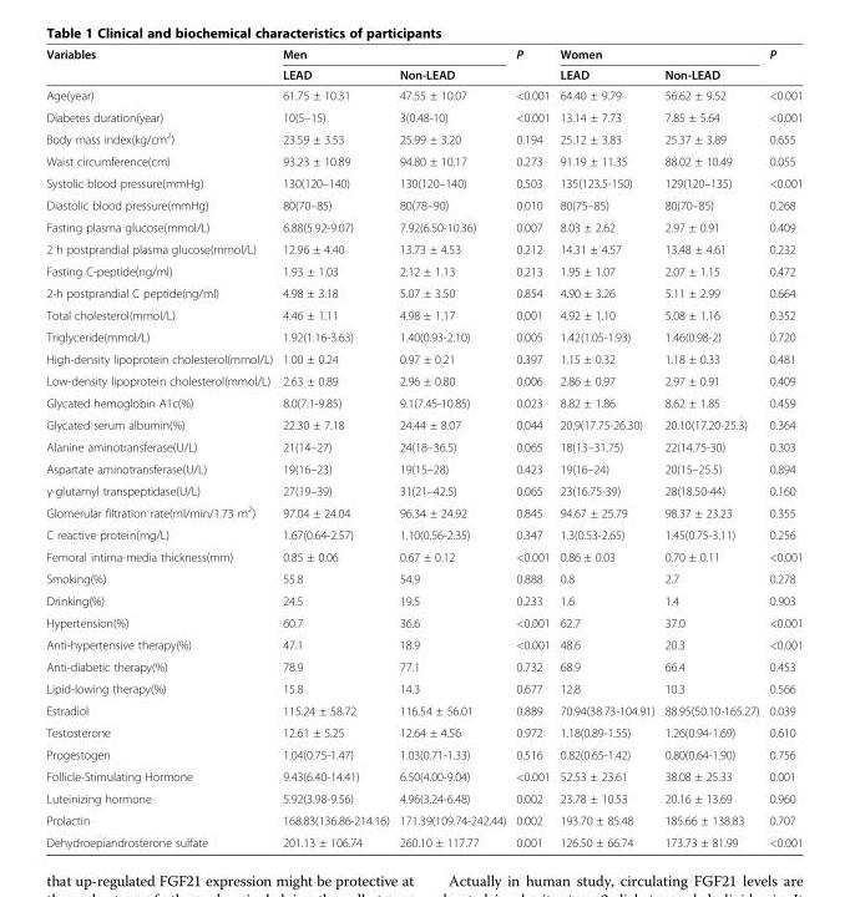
<table><thead><tr><td rowspan="2">Variables</td><td colspan="2">Men</td><td rowspan="2">P</td><td colspan="2">Women</td><td rowspan="2">P</td></tr><tr><td>LEAD</td><td>Non-LEAD</td><td>LEAD</td><td>Non-LEAD</td></tr></thead><tbody><tr><td>Age(year)</td><td>61.75 ± 10.31</td><td>47.55 ± 10.07</td><td>&lt;0.001</td><td>64.40 ± 9.79</td><td>56.62 ± 9.52</td><td>&lt;0.001</td></tr><tr><td>Diabetes duration(year)</td><td>10(5–15)</td><td>3(0.48-10)</td><td>&lt;0.001</td><td>13.14 ± 7.73</td><td>7.85 ± 5.64</td><td>&lt;0.001</td></tr><tr><td>Body mass index(kg/cm<sup>2</sup>)</td><td>23.59 ± 3.53</td><td>25.99 ± 3.20</td><td>0.194</td><td>25.12 ± 3.83</td><td>25.37 ± 3.89</td><td>0.655</td></tr><tr><td>Waist circumference(cm)</td><td>93.23 ± 10.89</td><td>94.80 ± 10.17</td><td>0.273</td><td>91.19 ± 11.35</td><td>88.02 ± 10.49</td><td>0.055</td></tr><tr><td>Systolic blood pressure(mmHg)</td><td>130(120–140)</td><td>130(120–140)</td><td>0.503</td><td>135(123.5-150)</td><td>129(120–135)</td><td>&lt;0.001</td></tr><tr><td>Diastolic blood pressure(mmHg)</td><td>80(70–85)</td><td>80(78–90)</td><td>0.010</td><td>80(75–85)</td><td>80(70–85)</td><td>0.268</td></tr><tr><td>Fasting plasma glucose(mmol/L)</td><td>6.88(5.92-9.07)</td><td>7.92(6.50-10.36)</td><td>0.007</td><td>8.03 ± 2.62</td><td>2.97 ± 0.91</td><td>0.409</td></tr><tr><td>2 h postprandial plasma glucose(mmol/L)</td><td>12.96 ± 4.40</td><td>13.73 ± 4.53</td><td>0.212</td><td>14.31 ± 4.57</td><td>13.48 ± 4.61</td><td>0.232</td></tr><tr><td>Fasting C-peptide(ng/ml)</td><td>1.93 ± 1.03</td><td>2.12 ± 1.13</td><td>0.213</td><td>1.95 ± 1.07</td><td>2.07 ± 1.15</td><td>0.472</td></tr><tr><td>2-h postprandial C peptide(ng/ml)</td><td>4.98 ± 3.18</td><td>5.07 ± 3.50</td><td>0.854</td><td>4.90 ± 3.26</td><td>5.11 ± 2.99</td><td>0.664</td></tr><tr><td>Total cholesterol(mmol/L)</td><td>4.46 ± 1.11</td><td>4.98 ± 1.17</td><td>0.001</td><td>4.92 ± 1.10</td><td>5.08 ± 1.16</td><td>0.352</td></tr><tr><td>Triglyceride(mmol/L)</td><td>1.92(1.16-3.63)</td><td>1.40(0.93-2.10)</td><td>0.005</td><td>1.42(1.05-1.93)</td><td>1.46(0.98-2)</td><td>0.720</td></tr><tr><td>High-density lipoprotein cholesterol(mmol/L)</td><td>1.00 ± 0.24</td><td>0.97 ± 0.21</td><td>0.397</td><td>1.15 ± 0.32</td><td>1.18 ± 0.33</td><td>0.481</td></tr><tr><td>Low-density lipoprotein cholesterol(mmol/L)</td><td>2.63 ± 0.89</td><td>2.96 ± 0.80</td><td>0.006</td><td>2.86 ± 0.97</td><td>2.97 ± 0.91</td><td>0.409</td></tr><tr><td>Glycated hemoglobin A1c(%)</td><td>8.0(7.1-9.85)</td><td>9.1(7.45-10.85)</td><td>0.023</td><td>8.82 ± 1.86</td><td>8.62 ± 1.85</td><td>0.459</td></tr><tr><td>Glycated serum albumin(%)</td><td>22.30 ± 7.18</td><td>24.44 ± 8.07</td><td>0.044</td><td>20.9(17.75-26.30)</td><td>20.10(17.20-25.3)</td><td>0.364</td></tr><tr><td>Alanine aminotransferase(U/L)</td><td>21(14–27)</td><td>24(18–36.5)</td><td>0.065</td><td>18(13–31.75)</td><td>22(14.75-30)</td><td>0.303</td></tr><tr><td>Aspartate aminotransferase(U/L)</td><td>19(16–23)</td><td>19(15–28)</td><td>0.423</td><td>19(16–24)</td><td>20(15–25.5)</td><td>0.894</td></tr><tr><td>γ-glutamyl transpeptidase(U/L)</td><td>27(19–39)</td><td>31(21–42.5)</td><td>0.065</td><td>23(16.75-39)</td><td>28(18.50-44)</td><td>0.160</td></tr><tr><td>Glomerular filtration rate(ml/min/1.73 m<sup>2</sup>)</td><td>97.04 ± 24.04</td><td>96.34 ± 24.92</td><td>0.845</td><td>94.67 ± 25.79</td><td>98.37 ± 23.23</td><td>0.355</td></tr><tr><td>C reactive protein(mg/L)</td><td>1.67(0.64-2.57)</td><td>1.10(0.56-2.35)</td><td>0.347</td><td>1.3(0.53-2.65)</td><td>1.45(0.75-3.11)</td><td>0.256</td></tr><tr><td>Femoral intima-media thickness(mm)</td><td>0.85 ± 0.06</td><td>0.67 ± 0.12</td><td>&lt;0.001</td><td>0.86 ± 0.03</td><td>0.70 ± 0.11</td><td>&lt;0.001</td></tr><tr><td>Smoking(%)</td><td>55.8</td><td>54.9</td><td>0.888</td><td>0.8</td><td>2.7</td><td>0.278</td></tr><tr><td>Drinking(%)</td><td>24.5</td><td>19.5</td><td>0.233</td><td>1.6</td><td>1.4</td><td>0.903</td></tr><tr><td>Hypertension(%)</td><td>60.7</td><td>36.6</td><td>&lt;0.001</td><td>62.7</td><td>37.0</td><td>&lt;0.001</td></tr><tr><td>Anti-hypertensive therapy(%)</td><td>47.1</td><td>18.9</td><td>&lt;0.001</td><td>48.6</td><td>20.3</td><td>&lt;0.001</td></tr><tr><td>Anti-diabetic therapy(%)</td><td>78.9</td><td>77.1</td><td>0.732</td><td>68.9</td><td>66.4</td><td>0.453</td></tr><tr><td>Lipid-lowing therapy(%)</td><td>15.8</td><td>14.3</td><td>0.677</td><td>12.8</td><td>10.3</td><td>0.566</td></tr><tr><td>Estradiol</td><td>115.24 ± 58.72</td><td>116.54 ± 56.01</td><td>0.889</td><td>70.94(38.73-104.91)</td><td>88.95(50.10-165.27)</td><td>0.039</td></tr><tr><td>Testosterone</td><td>12.61 ± 5.25</td><td>12.64 ± 4.56</td><td>0.972</td><td>1.18(0.89-1.55)</td><td>1.26(0.94-1.69)</td><td>0.610</td></tr><tr><td>Progestogen</td><td>1.04(0.75-1.47)</td><td>1.03(0.71-1.33)</td><td>0.516</td><td>0.82(0.65-1.42)</td><td>0.80(0.64-1.90)</td><td>0.756</td></tr><tr><td>Follicle-Stimulating Hormone</td><td>9.43(6.40-14.41)</td><td>6.50(4.00-9.04)</td><td>&lt;0.001</td><td>52.53 ± 23.61</td><td>38.08 ± 25.33</td><td>0.001</td></tr><tr><td>Luteinizing hormone</td><td>5.92(3.98-9.56)</td><td>4.96(3.24-6.48)</td><td>0.002</td><td>23.78 ± 10.53</td><td>20.16 ± 13.69</td><td>0.960</td></tr><tr><td>Prolactin</td><td>168.83(136.86-214.16)</td><td>171.39(109.74-242.44)</td><td>0.002</td><td>193.70 ± 85.48</td><td>185.66 ± 138.83</td><td>0.707</td></tr><tr><td>Dehydroepiandrosterone sulfate</td><td>201.13 ± 106.74</td><td>260.10 ± 117.77</td><td>0.001</td><td>126.50 ± 66.74</td><td>173.73 ± 81.99</td><td>&lt;0.001</td></tr></tbody></table>